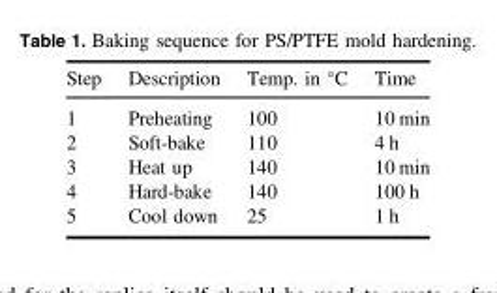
<table><thead><tr><td>Step</td><td>Description</td><td>Temp. in °C</td><td>Time</td></tr></thead><tbody><tr><td>1</td><td>Preheating</td><td>100</td><td>10 min</td></tr><tr><td>2</td><td>Soft-bake</td><td>110</td><td>4 h</td></tr><tr><td>3</td><td>Heat up</td><td>140</td><td>10 min</td></tr><tr><td>4</td><td>Hard-bake</td><td>140</td><td>100 h</td></tr><tr><td>5</td><td>Cool down</td><td>25</td><td>1 h</td></tr></tbody></table>